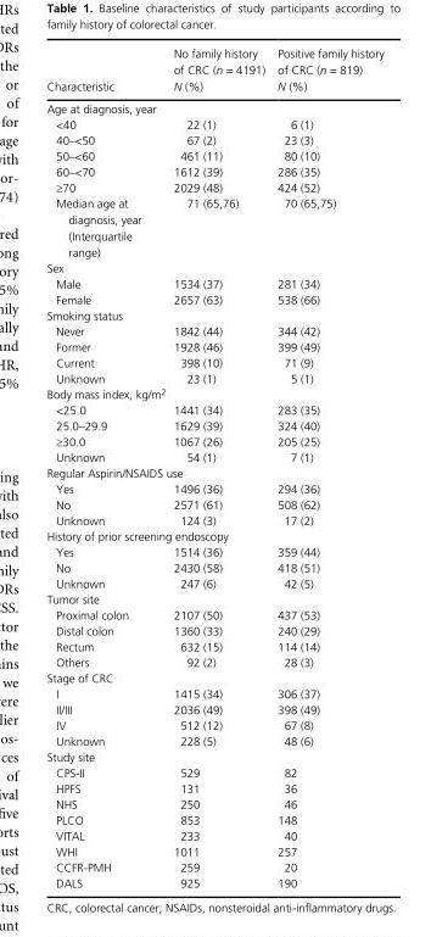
<table><thead><tr><td>Characteristic</td><td>No family history of CRC (n = 4191) N (%)</td><td>Positive family history of CRC (n = 819) N (%)</td></tr></thead><tbody><tr><td colspan="3">Age at diagnosis, year</td></tr><tr><td>&lt;40</td><td>22 (1)</td><td>6 (1)</td></tr><tr><td>40–&lt;50</td><td>67 (2)</td><td>23 (3)</td></tr><tr><td>50–&lt;60</td><td>461 (11)</td><td>80 (10)</td></tr><tr><td>60–&lt;70</td><td>1612 (39)</td><td>286 (35)</td></tr><tr><td>≥70</td><td>2029 (48)</td><td>424 (52)</td></tr><tr><td>Median age at diagnosis, year (Interquartile range)</td><td>71 (65,76)</td><td>70 (65,75)</td></tr><tr><td colspan="3">Sex</td></tr><tr><td>Male</td><td>1534 (37)</td><td>281 (34)</td></tr><tr><td>Female</td><td>2657 (63)</td><td>538 (66)</td></tr><tr><td colspan="3">Smoking status</td></tr><tr><td>Never</td><td>1842 (44)</td><td>344 (42)</td></tr><tr><td>Former</td><td>1928 (46)</td><td>399 (49)</td></tr><tr><td>Current</td><td>398 (10)</td><td>71 (9)</td></tr><tr><td>Unknown</td><td>23 (1)</td><td>5 (1)</td></tr><tr><td colspan="3">Body mass index, kg/m<sup>2</sup></td></tr><tr><td>&lt;25.0</td><td>1441 (34)</td><td>283 (35)</td></tr><tr><td>25.0–29.9</td><td>1629 (39)</td><td>324 (40)</td></tr><tr><td>≥30.0</td><td>1067 (26)</td><td>205 (25)</td></tr><tr><td>Unknown</td><td>54 (1)</td><td>7 (1)</td></tr><tr><td colspan="3">Regular Aspirin/NSAIDS use</td></tr><tr><td>Yes</td><td>1496 (36)</td><td>294 (36)</td></tr><tr><td>No</td><td>2571 (61)</td><td>508 (62)</td></tr><tr><td>Unknown</td><td>124 (3)</td><td>17 (2)</td></tr><tr><td colspan="3">History of prior screening endoscopy</td></tr><tr><td>Yes</td><td>1514 (36)</td><td>359 (44)</td></tr><tr><td>No</td><td>2430 (58)</td><td>418 (51)</td></tr><tr><td>Unknown</td><td>247 (6)</td><td>42 (5)</td></tr><tr><td colspan="3">Tumor site</td></tr><tr><td>Proximal colon</td><td>2107 (50)</td><td>437 (53)</td></tr><tr><td>Distal colon</td><td>1360 (33)</td><td>240 (29)</td></tr><tr><td>Rectum</td><td>632 (15)</td><td>114 (14)</td></tr><tr><td>Others</td><td>92 (2)</td><td>28 (3)</td></tr><tr><td colspan="3">Stage of CRC</td></tr><tr><td>I</td><td>1415 (34)</td><td>306 (37)</td></tr><tr><td>II/III</td><td>2036 (49)</td><td>398 (49)</td></tr><tr><td>IV</td><td>512 (12)</td><td>67 (8)</td></tr><tr><td>Unknown</td><td>228 (5)</td><td>48 (6)</td></tr><tr><td colspan="3">Study site</td></tr><tr><td>CPS- II</td><td>529</td><td>82</td></tr><tr><td>HPFS</td><td>131</td><td>36</td></tr><tr><td>NHS</td><td>250</td><td>46</td></tr><tr><td>PLCO</td><td>853</td><td>148</td></tr><tr><td>VITAL</td><td>233</td><td>40</td></tr><tr><td>WHI</td><td>1011</td><td>257</td></tr><tr><td>CCFR- PMH</td><td>259</td><td>20</td></tr><tr><td>DALS</td><td>925</td><td>190</td></tr></tbody></table>